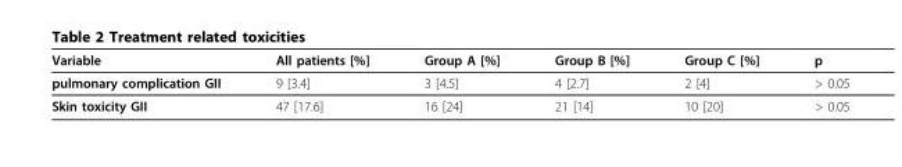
<table><thead><tr><td>Variable</td><td>All patients [%]</td><td>Group A [%]</td><td>Group B [%]</td><td>Group C [%]</td><td>p</td></tr></thead><tbody><tr><td>pulmonary complication GII</td><td>9 [3.4]</td><td>3 [4.5]</td><td>4 [2.7]</td><td>2 [4]</td><td>&gt; 0.05</td></tr><tr><td>Skin toxicity GII</td><td>47 [17.6]</td><td>16 [24]</td><td>21 [14]</td><td>10 [20]</td><td>&gt; 0.05</td></tr></tbody></table>